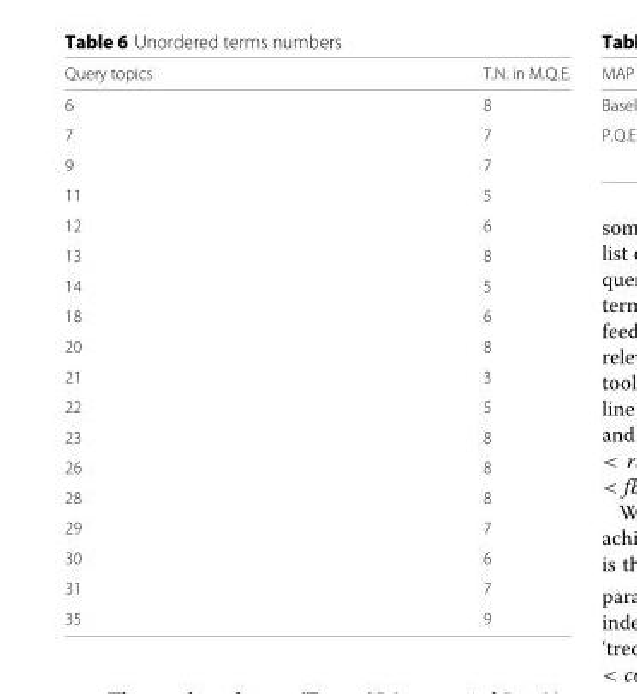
<table><thead><tr><td>Query topics</td><td>T.N. in M.Q.E.</td></tr></thead><tbody><tr><td>6</td><td>8</td></tr><tr><td>7</td><td>7</td></tr><tr><td>9</td><td>7</td></tr><tr><td>11</td><td>5</td></tr><tr><td>12</td><td>6</td></tr><tr><td>13</td><td>8</td></tr><tr><td>14</td><td>5</td></tr><tr><td>18</td><td>6</td></tr><tr><td>20</td><td>8</td></tr><tr><td>21</td><td>3</td></tr><tr><td>22</td><td>5</td></tr><tr><td>23</td><td>8</td></tr><tr><td>26</td><td>8</td></tr><tr><td>28</td><td>8</td></tr><tr><td>29</td><td>7</td></tr><tr><td>30</td><td>6</td></tr><tr><td>31</td><td>7</td></tr><tr><td>35</td><td>9</td></tr></tbody></table>